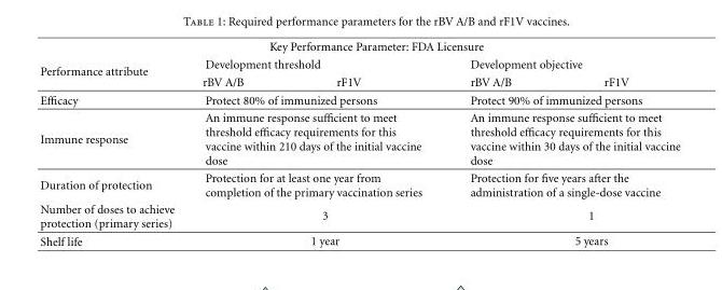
<table><tbody><tr><td colspan="5">Key Performance Parameter: FDA Licensure</td></tr><tr><td rowspan="2">Performance attribute</td><td colspan="2">Development threshold</td><td colspan="2">Development objective</td></tr><tr><td>rBV A/B</td><td>rF1V</td><td>rBV A/B</td><td>rF1V</td></tr><tr><td>Efficacy</td><td colspan="2">Protect 80% of immunized persons</td><td colspan="2">Protect 90% of immunized persons</td></tr><tr><td>Immune response</td><td colspan="2">An immune response sufficient to meet threshold efficacy requirements for this vaccine within 210 days of the initial vaccine dose</td><td colspan="2">An immune response sufficient to meet threshold efficacy requirements for this vaccine within 30 days of the initial vaccine dose</td></tr><tr><td>Duration of protection</td><td colspan="2">Protection for at least one year from completion of the primary vaccination series</td><td colspan="2">Protection for five years after the administration of a single-dose vaccine</td></tr><tr><td>Number of doses to achieve protection (primary series)</td><td colspan="2">3</td><td colspan="2">1</td></tr><tr><td>Shelf life</td><td colspan="2">1 year</td><td colspan="2">5 years</td></tr></tbody></table>